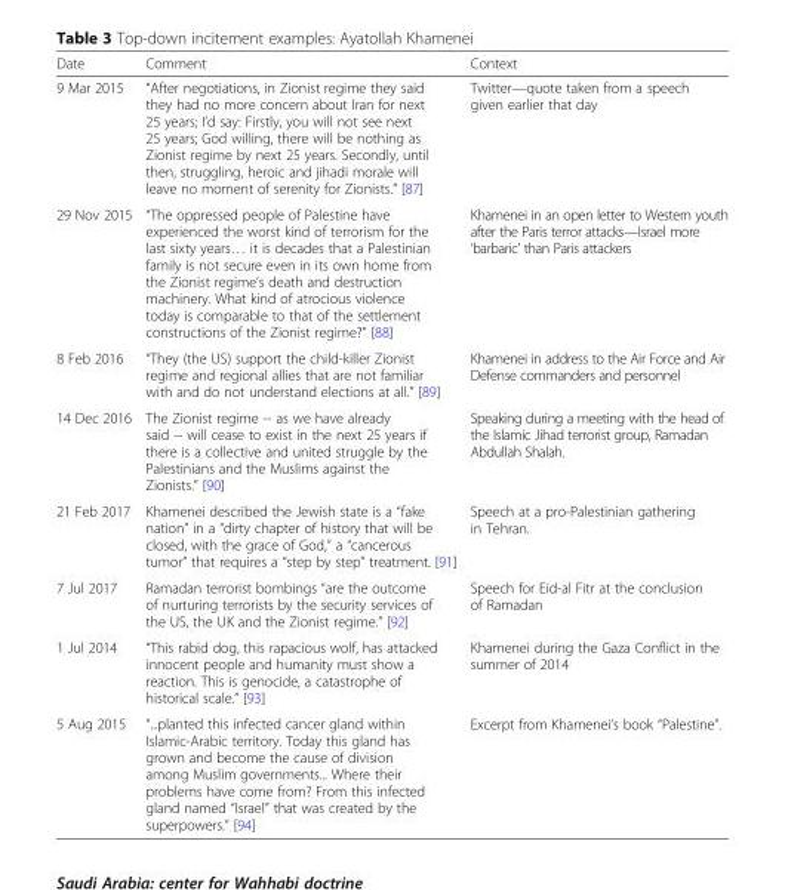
<table><thead><tr><td>Date</td><td>Comment</td><td>Context</td></tr></thead><tbody><tr><td>9 Mar 2015</td><td>“After negotiations, in Zionist regime they said they had no more concern about Iran for next 25 years; I’d say: Firstly, you will not see next 25 years; God willing, there will be nothing as Zionist regime by next 25 years. Secondly, until then, struggling, heroic and jihadi morale will leave no moment of serenity for Zionists.” [87]</td><td>Twitter—quote taken from a speech given earlier that day</td></tr><tr><td>29 Nov 2015</td><td>“The oppressed people of Palestine have experienced the worst kind of terrorism for the last sixty years… it is decades that a Palestinian family is not secure even in its own home from the Zionist regime’s death and destruction machinery. What kind of atrocious violence today is comparable to that of the settlement constructions of the Zionist regime?” [88]</td><td>Khamenei in an open letter to Western youth after the Paris terror attacks—Israel more ‘barbaric’ than Paris attackers</td></tr><tr><td>8 Feb 2016</td><td>“They (the US) support the child-killer Zionist regime and regional allies that are not familiar with and do not understand elections at all.” [89]</td><td>Khamenei in address to the Air Force and Air Defense commanders and personnel</td></tr><tr><td>14 Dec 2016</td><td>The Zionist regime -- as we have already said -- will cease to exist in the next 25 years if there is a collective and united struggle by the Palestinians and the Muslims against the Zionists.” [90]</td><td>Speaking during a meeting with the head of the Islamic Jihad terrorist group, Ramadan Abdullah Shalah.</td></tr><tr><td>21 Feb 2017</td><td>Khamenei described the Jewish state is a “fake nation” in a “dirty chapter of history that will be closed, with the grace of God,” a “cancerous tumor” that requires a “step by step” treatment. [91]</td><td>Speech at a pro-Palestinian gathering in Tehran.</td></tr><tr><td>7 Jul 2017</td><td>Ramadan terrorist bombings “are the outcome of nurturing terrorists by the security services of the US, the UK and the Zionist regime.” [92]</td><td>Speech for Eid-al Fitr at the conclusion of Ramadan</td></tr><tr><td>1 Jul 2014</td><td>“This rabid dog, this rapacious wolf, has attacked innocent people and humanity must show a reaction. This is genocide, a catastrophe of historical scale.” [93]</td><td>Khamenei during the Gaza Conflict in the summer of 2014</td></tr><tr><td>5 Aug 2015</td><td>“...planted this infected cancer gland within Islamic-Arabic territory. Today this gland has grown and become the cause of division among Muslim governments... Where their problems have come from? From this infected gland named “Israel” that was created by the superpowers.” [94]</td><td>Excerpt from Khamenei’s book “Palestine”.</td></tr></tbody></table>